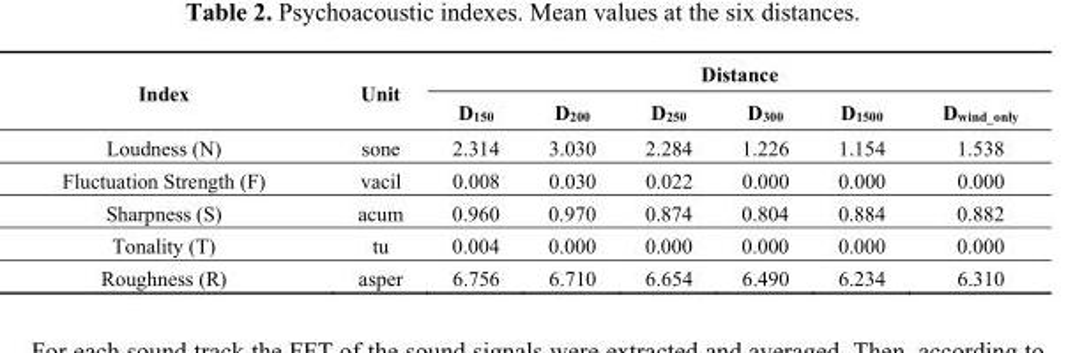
<table><thead><tr><td rowspan="2">Index</td><td rowspan="2">Unit</td><td colspan="6">Distance</td></tr><tr><td>D<sub>150</sub></td><td>D<sub>200</sub></td><td>D<sub>250</sub></td><td>D<sub>300</sub></td><td>D<sub>1500</sub></td><td>D<sub>wind_only</sub></td></tr></thead><tbody><tr><td>Loudness (N)</td><td>sone</td><td>2.314</td><td>3.030</td><td>2.284</td><td>1.226</td><td>1.154</td><td>1.538</td></tr><tr><td>Fluctuation Strength (F)</td><td>vacil</td><td>0.008</td><td>0.030</td><td>0.022</td><td>0.000</td><td>0.000</td><td>0.000</td></tr><tr><td>Sharpness (S)</td><td>acum</td><td>0.960</td><td>0.970</td><td>0.874</td><td>0.804</td><td>0.884</td><td>0.882</td></tr><tr><td>Tonality (T)</td><td>tu</td><td>0.004</td><td>0.000</td><td>0.000</td><td>0.000</td><td>0.000</td><td>0.000</td></tr><tr><td>Roughness (R)</td><td>asper</td><td>6.756</td><td>6.710</td><td>6.654</td><td>6.490</td><td>6.234</td><td>6.310</td></tr></tbody></table>